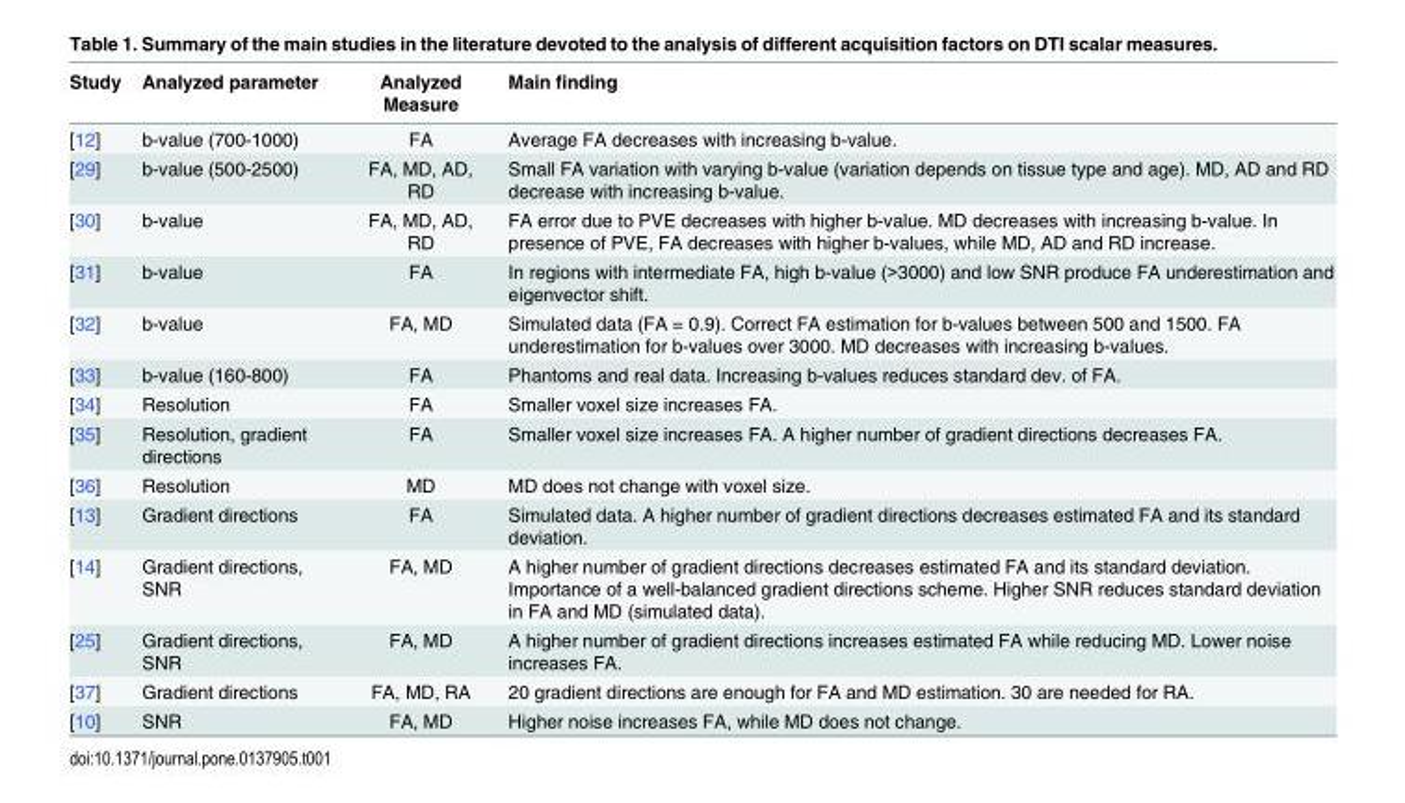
<table><thead><tr><td>Study</td><td>Analyzed parameter</td><td>Analyzed Measure</td><td>Main finding</td></tr></thead><tbody><tr><td>[12]</td><td>b-value (700-1000)</td><td>FA</td><td>Average FA decreases with increasing b-value.</td></tr><tr><td>[29]</td><td>b-value (500-2500)</td><td>FA, MD, AD, RD</td><td>Small FA variation with varying b-value (variation depends on tissue type and age). MD, AD and RD decrease with increasing b-value.</td></tr><tr><td>[30]</td><td>b-value</td><td>FA, MD, AD, RD</td><td>FA error due to PVE decreases with higher b-value. MD decreases with increasing b-value. In presence of PVE, FA decreases with higher b-values, while MD, AD and RD increase.</td></tr><tr><td>[31]</td><td>b-value</td><td>FA</td><td>In regions with intermediate FA, high b-value (&gt;3000) and low SNR produce FA underestimation and eigenvector shift.</td></tr><tr><td>[32]</td><td>b-value</td><td>FA, MD</td><td>Simulated data (FA = 0.9). Correct FA estimation for b-values between 500 and 1500. FA underestimation for b-values over 3000. MD decreases with increasing b-values.</td></tr><tr><td>[33]</td><td>b-value (160-800)</td><td>FA</td><td>Phantoms and real data. Increasing b-values reduces standard dev. of FA.</td></tr><tr><td>[34]</td><td>Resolution</td><td>FA</td><td>Smaller voxel size increases FA.</td></tr><tr><td>[35]</td><td>Resolution, gradient directions</td><td>FA</td><td>Smaller voxel size increases FA. A higher number of gradient directions decreases FA.</td></tr><tr><td>[36]</td><td>Resolution</td><td>MD</td><td>MD does not change with voxel size.</td></tr><tr><td>[13]</td><td>Gradient directions</td><td>FA</td><td>Simulated data. A higher number of gradient directions decreases estimated FA and its standard deviation.</td></tr><tr><td>[14]</td><td>Gradient directions, SNR</td><td>FA, MD</td><td>A higher number of gradient directions decreases estimated FA and its standard deviation. Importance of a well-balanced gradient directions scheme. Higher SNR reduces standard deviation in FA and MD (simulated data).</td></tr><tr><td>[25]</td><td>Gradient directions, SNR</td><td>FA, MD</td><td>A higher number of gradient directions increases estimated FA while reducing MD. Lower noise increases FA.</td></tr><tr><td>[37]</td><td>Gradient directions</td><td>FA, MD, RA</td><td>20 gradient directions are enough for FA and MD estimation. 30 are needed for RA.</td></tr><tr><td>[10]</td><td>SNR</td><td>FA, MD</td><td>Higher noise increases FA, while MD does not change.</td></tr></tbody></table>